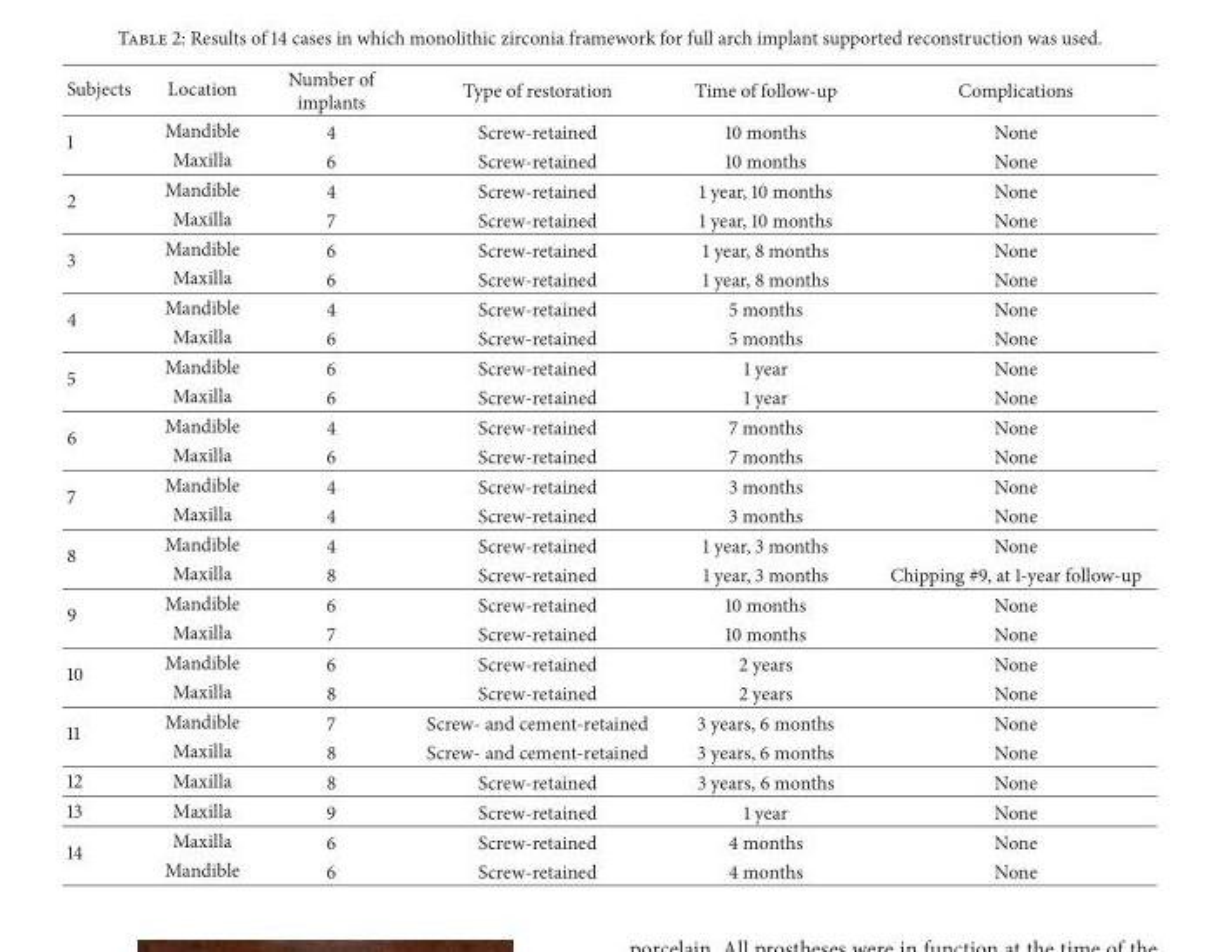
<table><thead><tr><td>Subjects</td><td>Location</td><td>Number of implants</td><td>Type of restoration</td><td>Time of follow-up</td><td>Complications</td></tr></thead><tbody><tr><td rowspan="2">1</td><td>Mandible</td><td>4</td><td>Screw-retained</td><td>10 months</td><td>None</td></tr><tr><td>Maxilla</td><td>6</td><td>Screw-retained</td><td>10 months</td><td>None</td></tr><tr><td rowspan="2">2</td><td>Mandible</td><td>4</td><td>Screw-retained</td><td>1 year, 10 months</td><td>None</td></tr><tr><td>Maxilla</td><td>7</td><td>Screw-retained</td><td>1 year, 10 months</td><td>None</td></tr><tr><td rowspan="2">3</td><td>Mandible</td><td>6</td><td>Screw-retained</td><td>1 year, 8 months</td><td>None</td></tr><tr><td>Maxilla</td><td>6</td><td>Screw-retained</td><td>1 year, 8 months</td><td>None</td></tr><tr><td rowspan="2">4</td><td>Mandible</td><td>4</td><td>Screw-retained</td><td>5 months</td><td>None</td></tr><tr><td>Maxilla</td><td>6</td><td>Screw-retained</td><td>5 months</td><td>None</td></tr><tr><td rowspan="2">5</td><td>Mandible</td><td>6</td><td>Screw-retained</td><td>1 year</td><td>None</td></tr><tr><td>Maxilla</td><td>6</td><td>Screw-retained</td><td>1 year</td><td>None</td></tr><tr><td rowspan="2">6</td><td>Mandible</td><td>4</td><td>Screw-retained</td><td>7 months</td><td>None</td></tr><tr><td>Maxilla</td><td>6</td><td>Screw-retained</td><td>7 months</td><td>None</td></tr><tr><td rowspan="2">7</td><td>Mandible</td><td>4</td><td>Screw-retained</td><td>3 months</td><td>None</td></tr><tr><td>Maxilla</td><td>4</td><td>Screw-retained</td><td>3 months</td><td>None</td></tr><tr><td rowspan="2">8</td><td>Mandible</td><td>4</td><td>Screw-retained</td><td>1 year, 3 months</td><td>None</td></tr><tr><td>Maxilla</td><td>8</td><td>Screw-retained</td><td>1 year, 3 months</td><td>Chipping #9, at 1-year follow-up</td></tr><tr><td rowspan="2">9</td><td>Mandible</td><td>6</td><td>Screw-retained</td><td>10 months</td><td>None</td></tr><tr><td>Maxilla</td><td>7</td><td>Screw-retained</td><td>10 months</td><td>None</td></tr><tr><td rowspan="2">10</td><td>Mandible</td><td>6</td><td>Screw-retained</td><td>2 years</td><td>None</td></tr><tr><td>Maxilla</td><td>8</td><td>Screw-retained</td><td>2 years</td><td>None</td></tr><tr><td rowspan="2">11</td><td>Mandible</td><td>7</td><td>Screw- and cement-retained</td><td>3 years, 6 months</td><td>None</td></tr><tr><td>Maxilla</td><td>8</td><td>Screw- and cement-retained</td><td>3 years, 6 months</td><td>None</td></tr><tr><td>12</td><td>Maxilla</td><td>8</td><td>Screw-retained</td><td>3 years, 6 months</td><td>None</td></tr><tr><td>13</td><td>Maxilla</td><td>9</td><td>Screw-retained</td><td>1 year</td><td>None</td></tr><tr><td rowspan="2">14</td><td>Maxilla</td><td>6</td><td>Screw-retained</td><td>4 months</td><td>None</td></tr><tr><td>Mandible</td><td>6</td><td>Screw-retained</td><td>4 months</td><td>None</td></tr></tbody></table>